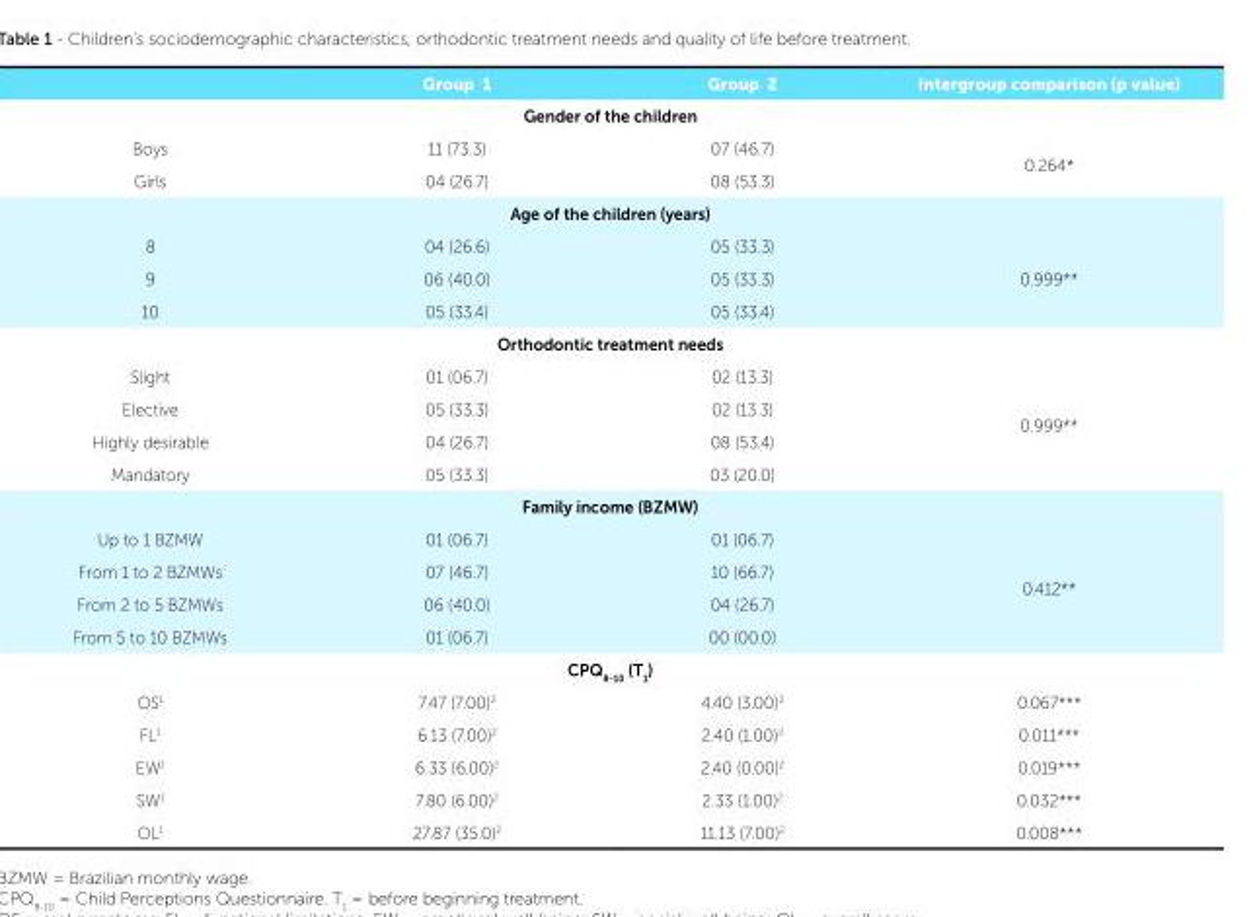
<table><thead><tr><td></td><td>Group 1</td><td>Group 2</td><td>Intergroup comparison (p value)</td></tr></thead><tbody><tr><td colspan="4">Gender of the children</td></tr><tr><td>Boys</td><td>11 (73.3)</td><td>07 (46.7)</td><td rowspan="2">0.264*</td></tr><tr><td>Girls</td><td>04 (26.7)</td><td>08 (53.3)</td></tr><tr><td colspan="4">Age of the children (years)</td></tr><tr><td>8</td><td>04 (26.6)</td><td>05 (33.3)</td><td rowspan="3">0.999**</td></tr><tr><td>9</td><td>06 (40.0)</td><td>05 (33.3)</td></tr><tr><td>10</td><td>05 (33.4)</td><td>05 (33.4)</td></tr><tr><td colspan="4">Orthodontic treatment needs</td></tr><tr><td>Slight</td><td>01 (06.7)</td><td>02 (13.3)</td><td rowspan="4">0.999**</td></tr><tr><td>Elective</td><td>05 (33.3)</td><td>02 (13.3)</td></tr><tr><td>Highly desirable</td><td>04 (26.7)</td><td>08 (53.4)</td></tr><tr><td>Mandatory</td><td>05 (33.3)</td><td>03 (20.0)</td></tr><tr><td colspan="4">Family income (BZMW)</td></tr><tr><td>Up to 1 BZMW</td><td>01 (06.7)</td><td>01 (06.7)</td><td rowspan="4">0.412**</td></tr><tr><td>From 1 to 2 BZMWs</td><td>07 (46.7)</td><td>10 (66.7)</td></tr><tr><td>From 2 to 5 BZMWs</td><td>06 (40.0)</td><td>04 (26.7)</td></tr><tr><td>From 5 to 10 BZMWs</td><td>01 (06.7)</td><td>00 (00.0)</td></tr><tr><td colspan="4">CPQ<sub>8-10</sub> (T<sub>1</sub>)</td></tr><tr><td>OS<sup>1</sup></td><td>7.47 (7.00)<sup>2</sup></td><td>4.40 (3.00)<sup>2</sup></td><td>0.067***</td></tr><tr><td>FL<sup>1</sup></td><td>6.13 (7.00)<sup>2</sup></td><td>2.40 (1.00)<sup>2</sup></td><td>0.011***</td></tr><tr><td>EW<sup>1</sup></td><td>6.33 (6.00)<sup>2</sup></td><td>2.40 (0.00)<sup>2</sup></td><td>0.019***</td></tr><tr><td>SW<sup>1</sup></td><td>7.80 (6.00)<sup>2</sup></td><td>2.33 (1.00)<sup>2</sup></td><td>0.032***</td></tr><tr><td>OL<sup>1</sup></td><td>27.87 (35.0)<sup>2</sup></td><td>11.13 (7.00)<sup>2</sup></td><td>0.008***</td></tr></tbody></table>